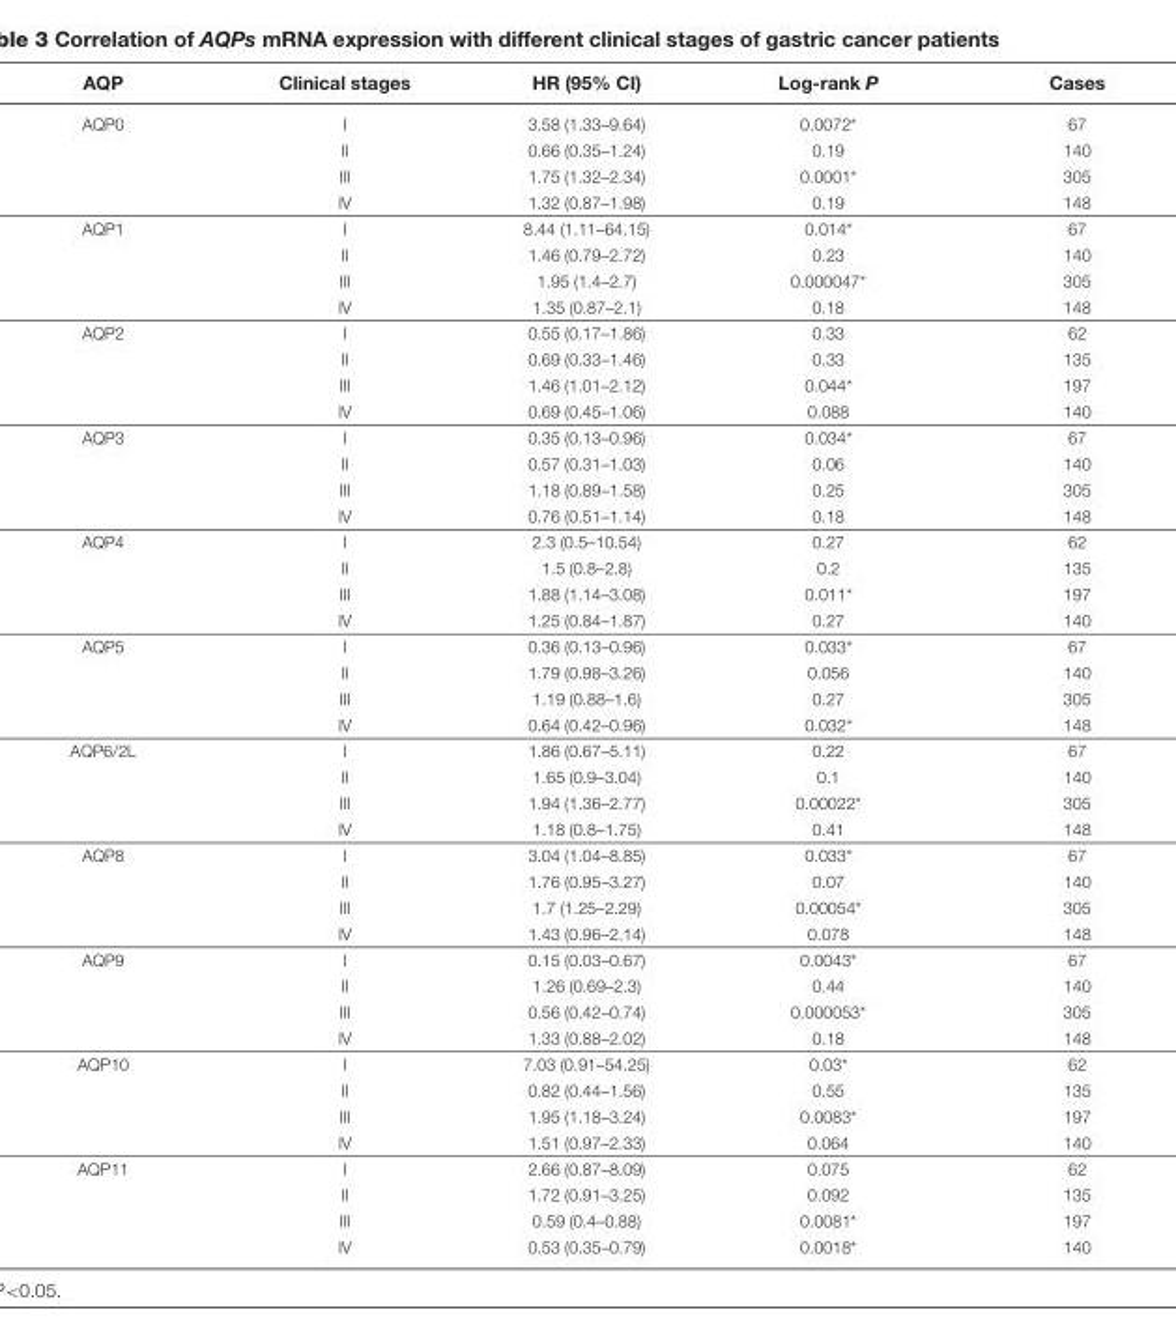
<table><thead><tr><td>AQP</td><td>Clinical stages</td><td>HR (95% CI)</td><td>Log-rank P</td><td>Cases</td></tr></thead><tbody><tr><td rowspan="4">AQP0</td><td>I</td><td>3.58 (1.33–9.64)</td><td>0.0072*</td><td>67</td></tr><tr><td>II</td><td>0.66 (0.35–1.24)</td><td>0.19</td><td>140</td></tr><tr><td>III</td><td>1.75 (1.32–2.34)</td><td>0.0001*</td><td>305</td></tr><tr><td>IV</td><td>1.32 (0.87–1.98)</td><td>0.19</td><td>148</td></tr><tr><td rowspan="4">AQP1</td><td>I</td><td>8.44 (1.11–64.15)</td><td>0.014*</td><td>67</td></tr><tr><td>II</td><td>1.46 (0.79–2.72)</td><td>0.23</td><td>140</td></tr><tr><td>III</td><td>1.95 (1.4–2.7)</td><td>0.000047*</td><td>305</td></tr><tr><td>IV</td><td>1.35 (0.87–2.1)</td><td>0.18</td><td>148</td></tr><tr><td rowspan="4">AQP2</td><td>I</td><td>0.55 (0.17–1.86)</td><td>0.33</td><td>62</td></tr><tr><td>II</td><td>0.69 (0.33–1.46)</td><td>0.33</td><td>135</td></tr><tr><td>III</td><td>1.46 (1.01–2.12)</td><td>0.044*</td><td>197</td></tr><tr><td>IV</td><td>0.69 (0.45–1.06)</td><td>0.088</td><td>140</td></tr><tr><td rowspan="4">AQP3</td><td>I</td><td>0.35 (0.13–0.96)</td><td>0.034*</td><td>67</td></tr><tr><td>II</td><td>0.57 (0.31–1.03)</td><td>0.06</td><td>140</td></tr><tr><td>III</td><td>1.18 (0.89–1.58)</td><td>0.25</td><td>305</td></tr><tr><td>IV</td><td>0.76 (0.51–1.14)</td><td>0.18</td><td>148</td></tr><tr><td rowspan="4">AQP4</td><td>I</td><td>2.3 (0.5–10.54)</td><td>0.27</td><td>62</td></tr><tr><td>II</td><td>1.5 (0.8–2.8)</td><td>0.2</td><td>135</td></tr><tr><td>III</td><td>1.88 (1.14–3.08)</td><td>0.011*</td><td>197</td></tr><tr><td>IV</td><td>1.25 (0.84–1.87)</td><td>0.27</td><td>140</td></tr><tr><td rowspan="4">AQP5</td><td>I</td><td>0.36 (0.13–0.96)</td><td>0.033*</td><td>67</td></tr><tr><td>II</td><td>1.79 (0.98–3.26)</td><td>0.056</td><td>140</td></tr><tr><td>III</td><td>1.19 (0.88–1.6)</td><td>0.27</td><td>305</td></tr><tr><td>IV</td><td>0.64 (0.42–0.96)</td><td>0.032*</td><td>148</td></tr><tr><td rowspan="4">AQP6/2L</td><td>I</td><td>1.86 (0.67–5.11)</td><td>0.22</td><td>67</td></tr><tr><td>II</td><td>1.65 (0.9–3.04)</td><td>0.1</td><td>140</td></tr><tr><td>III</td><td>1.94 (1.36–2.77)</td><td>0.00022*</td><td>305</td></tr><tr><td>IV</td><td>1.18 (0.8–1.75)</td><td>0.41</td><td>148</td></tr><tr><td rowspan="4">AQP8</td><td>I</td><td>3.04 (1.04–8.85)</td><td>0.033*</td><td>67</td></tr><tr><td>II</td><td>1.76 (0.95–3.27)</td><td>0.07</td><td>140</td></tr><tr><td>III</td><td>1.7 (1.25–2.29)</td><td>0.00054*</td><td>305</td></tr><tr><td>IV</td><td>1.43 (0.96–2.14)</td><td>0.078</td><td>148</td></tr><tr><td rowspan="4">AQP9</td><td>I</td><td>0.15 (0.03–0.67)</td><td>0.0043*</td><td>67</td></tr><tr><td>II</td><td>1.26 (0.69–2.3)</td><td>0.44</td><td>140</td></tr><tr><td>III</td><td>0.56 (0.42–0.74)</td><td>0.000053*</td><td>305</td></tr><tr><td>IV</td><td>1.33 (0.88–2.02)</td><td>0.18</td><td>148</td></tr><tr><td rowspan="4">AQP10</td><td>I</td><td>7.03 (0.91–54.25)</td><td>0.03*</td><td>62</td></tr><tr><td>II</td><td>0.82 (0.44–1.56)</td><td>0.55</td><td>135</td></tr><tr><td>III</td><td>1.95 (1.18–3.24)</td><td>0.0083*</td><td>197</td></tr><tr><td>IV</td><td>1.51 (0.97–2.33)</td><td>0.064</td><td>140</td></tr><tr><td rowspan="4">AQP11</td><td>I</td><td>2.66 (0.87–8.09)</td><td>0.075</td><td>62</td></tr><tr><td>II</td><td>1.72 (0.91–3.25)</td><td>0.092</td><td>135</td></tr><tr><td>III</td><td>0.59 (0.4–0.88)</td><td>0.0081*</td><td>197</td></tr><tr><td>IV</td><td>0.53 (0.35–0.79)</td><td>0.0018*</td><td>140</td></tr></tbody></table>